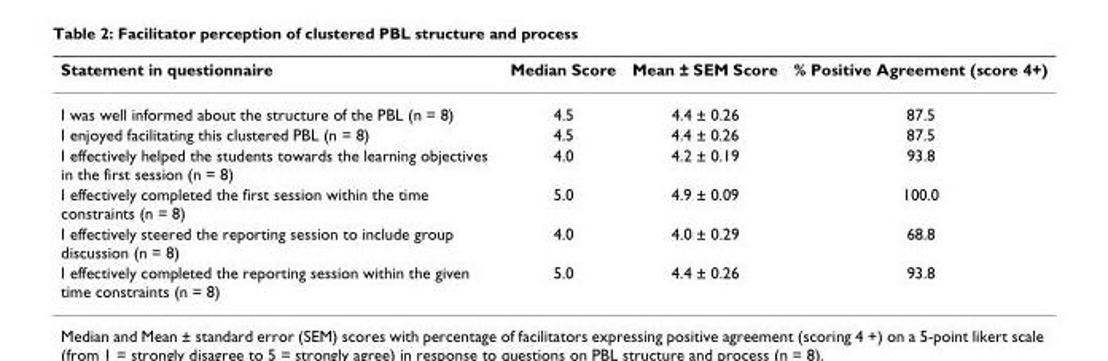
<table><thead><tr><td>Statement in questionnaire</td><td>Median Score</td><td>Mean ± SEM Score</td><td>% Positive Agreement (score 4+)</td></tr></thead><tbody><tr><td>I was well informed about the structure of the PBL (n = 8)</td><td>4.5</td><td>4.4 ± 0.26</td><td>87.5</td></tr><tr><td>I enjoyed facilitating this clustered PBL (n = 8)</td><td>4.5</td><td>4.4 ± 0.26</td><td>87.5</td></tr><tr><td>I effectively helped the students towards the learning objectives in the first session (n = 8)</td><td>4.0</td><td>4.2 ± 0.19</td><td>93.8</td></tr><tr><td>I effectively completed the first session within the time constraints (n = 8)</td><td>5.0</td><td>4.9 ± 0.09</td><td>100.0</td></tr><tr><td>I effectively steered the reporting session to include group discussion (n = 8)</td><td>4.0</td><td>4.0 ± 0.29</td><td>68.8</td></tr><tr><td>I effectively completed the reporting session within the given time constraints (n = 8)</td><td>5.0</td><td>4.4 ± 0.26</td><td>93.8</td></tr></tbody></table>